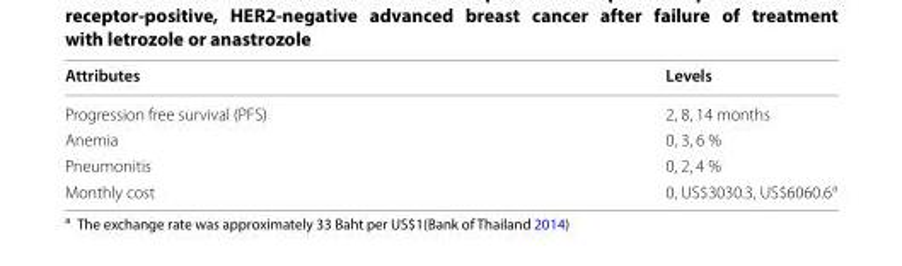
<table><thead><tr><td>Attributes</td><td>Levels</td></tr></thead><tbody><tr><td>Progression free survival (PFS)</td><td>2, 8, 14 months</td></tr><tr><td>Anemia</td><td>0, 3, 6 %</td></tr><tr><td>Pneumonitis</td><td>0, 2, 4 %</td></tr><tr><td>Monthly cost</td><td>0, US$3030.3, US$6060.6<sup>a</sup></td></tr></tbody></table>